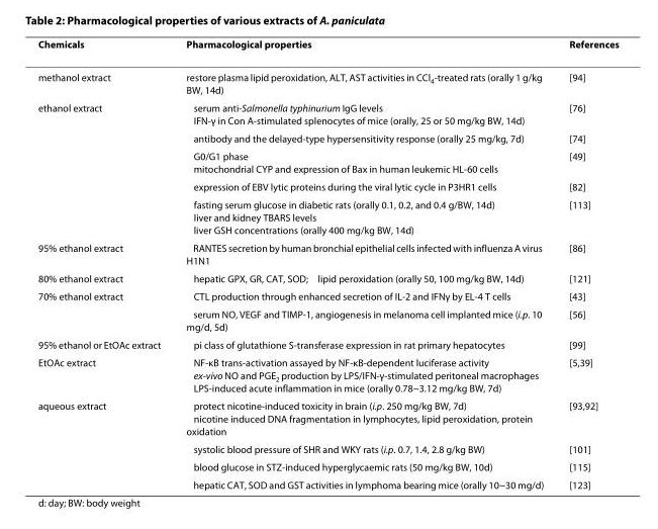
<table><thead><tr><td>Chemicals</td><td>Pharmacological properties</td><td>References</td></tr></thead><tbody><tr><td>methanol extract</td><td>restore plasma lipid peroxidation, ALT, AST activities in CCl<sub>4</sub>-treated rats (orally 1 g/kg BW, 14d)</td><td>[94]</td></tr><tr><td rowspan="5">ethanol extract</td><td>↑ serum anti-Salmonella typhinurium IgG levels ↑ IFN-γ in Con A-stimulated splenocytes of mice (orally, 25 or 50 mg/kg BW, 14d)</td><td>[76]</td></tr><tr><td>↑ antibody and the delayed-type hypersensitivity response (orally 25 mg/kg, 7d)</td><td>[74]</td></tr><tr><td>↑ G0/G1 phase ↑ mitochondrial CYP and expression of Bax in human leukemic HL-60 cells</td><td>[49]</td></tr><tr><td>↓ expression of EBV lytic proteins during the viral lytic cycle in P3HR1 cells</td><td>[82]</td></tr><tr><td>↓ fasting serum glucose in diabetic rats (orally 0.1, 0.2, and 0.4 g/BW, 14d) ↓ liver and kidney TBARS levels ↑ liver GSH concentrations (orally 400 mg/kg BW, 14d)</td><td>[113]</td></tr><tr><td>95% ethanol extract</td><td>↓ RANTES secretion by human bronchial epithelial cells infected with influenza A virus H1N1</td><td>[86]</td></tr><tr><td>80% ethanol extract</td><td>↑ hepatic GPX, GR, CAT, SOD; ↓ lipid peroxidation (orally 50, 100 mg/kg BW, 14d)</td><td>[121]</td></tr><tr><td rowspan="2">70% ethanol extract</td><td>↑ CTL production through enhanced secretion of IL-2 and IFNγ by EL-4 T cells</td><td>[43]</td></tr><tr><td>↓ serum NO, VEGF and TIMP-1, angiogenesis in melanoma cell implanted mice (i.p. 10 mg/d, 5d)</td><td>[56]</td></tr><tr><td>95% ethanol or EtOAc extract</td><td>↑ pi class of glutathione S-transferase expression in rat primary hepatocytes</td><td>[99]</td></tr><tr><td>EtOAc extract</td><td>↓ NF-κB trans-activation assayed by NF-κB-dependent luciferase activity ↓ ex-vivo NO and PGE<sub>2</sub> production by LPS/IFN-γ-stimulated peritoneal macrophages ↓ LPS-induced acute inflammation in mice (orally 0.78~3.12 mg/kg BW, 7d)</td><td>[5,39]</td></tr><tr><td rowspan="4">aqueous extract</td><td>↑ protect nicotine-induced toxicity in brain (i.p. 250 mg/kg BW, 7d) ↓ nicotine induced DNA fragmentation in lymphocytes, lipid peroxidation, protein oxidation</td><td>[93,92]</td></tr><tr><td>↓ systolic blood pressure of SHR and WKY rats (i.p. 0.7, 1.4, 2.8 g/kg BW)</td><td>[101]</td></tr><tr><td>↓ blood glucose in STZ-induced hyperglycaemic rats (50 mg/kg BW, 10d)</td><td>[115]</td></tr><tr><td>↑ hepatic CAT, SOD and GST activities in lymphoma bearing mice (orally 10~30 mg/d)</td><td>[123]</td></tr></tbody></table>